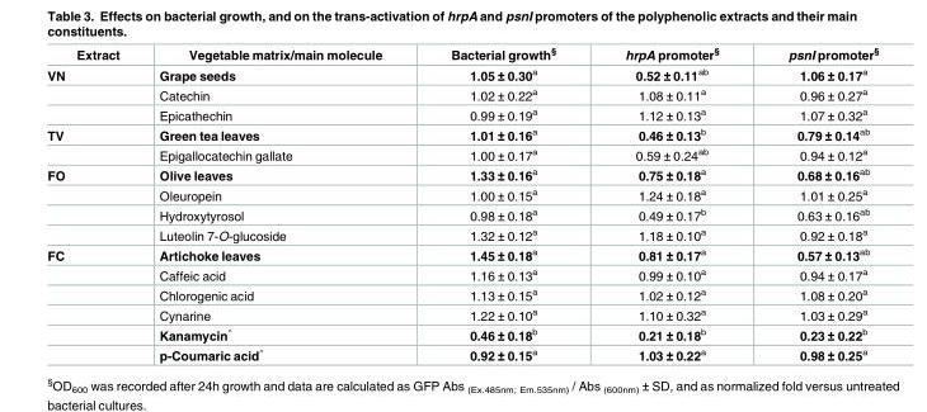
<table><thead><tr><td>Extract</td><td>Vegetable matrix/main molecule</td><td>Bacterial growth<sup>§</sup></td><td>hrpA promoter<sup>§</sup></td><td>psnI promoter<sup>§</sup></td></tr></thead><tbody><tr><td rowspan="3">VN</td><td>Grape seeds</td><td>1.05 ± 0.30<sup>a</sup></td><td>0.52 ± 0.11<sup>ab</sup></td><td>1.06 ± 0.17<sup>a</sup></td></tr><tr><td>Catechin</td><td>1.02 ± 0.22<sup>a</sup></td><td>1.08 ± 0.11<sup>a</sup></td><td>0.96 ± 0.27<sup>a</sup></td></tr><tr><td>Epicathechin</td><td>0.99 ± 0.19<sup>a</sup></td><td>1.12 ± 0.13<sup>a</sup></td><td>1.07 ± 0.32<sup>a</sup></td></tr><tr><td rowspan="2">TV</td><td>Green tea leaves</td><td>1.01 ± 0.16<sup>a</sup></td><td>0.46 ± 0.13<sup>b</sup></td><td>0.79 ± 0.14<sup>ab</sup></td></tr><tr><td>Epigallocatechin gallate</td><td>1.00 ± 0.17<sup>a</sup></td><td>0.59 ± 0.24<sup>ab</sup></td><td>0.94 ± 0.12<sup>a</sup></td></tr><tr><td rowspan="4">FO</td><td>Olive leaves</td><td>1.33 ± 0.16<sup>a</sup></td><td>0.75 ± 0.18<sup>a</sup></td><td>0.68 ± 0.16<sup>ab</sup></td></tr><tr><td>Oleuropein</td><td>1.00 ± 0.15<sup>a</sup></td><td>1.24 ± 0.18<sup>a</sup></td><td>1.01 ± 0.25<sup>a</sup></td></tr><tr><td>Hydroxytyrosol</td><td>0.98 ± 0.18<sup>a</sup></td><td>0.49 ± 0.17<sup>b</sup></td><td>0.63 ± 0.16<sup>ab</sup></td></tr><tr><td>Luteolin 7-O-glucoside</td><td>1.32 ± 0.12<sup>a</sup></td><td>1.18 ± 0.10<sup>a</sup></td><td>0.92 ± 0.18<sup>a</sup></td></tr><tr><td rowspan="6">FC</td><td>Artichoke leaves</td><td>1.45 ± 0.18<sup>a</sup></td><td>0.81 ± 0.17<sup>a</sup></td><td>0.57 ± 0.13<sup>ab</sup></td></tr><tr><td>Caffeic acid</td><td>1.16 ± 0.13<sup>a</sup></td><td>0.99 ± 0.10<sup>a</sup></td><td>0.94 ± 0.17<sup>a</sup></td></tr><tr><td>Chlorogenic acid</td><td>1.13 ± 0.15<sup>a</sup></td><td>1.02 ± 0.12<sup>a</sup></td><td>1.08 ± 0.20<sup>a</sup></td></tr><tr><td>Cynarine</td><td>1.22 ± 0.10<sup>a</sup></td><td>1.10 ± 0.32<sup>a</sup></td><td>1.03 ± 0.29<sup>a</sup></td></tr><tr><td>Kanamycin<sup>˄</sup></td><td>0.46 ± 0.18<sup>b</sup></td><td>0.21 ± 0.18<sup>b</sup></td><td>0.23 ± 0.22<sup>b</sup></td></tr><tr><td>p-Coumaric acid<sup>˄</sup></td><td>0.92 ± 0.15<sup>a</sup></td><td>1.03 ± 0.22<sup>a</sup></td><td>0.98 ± 0.25<sup>a</sup></td></tr></tbody></table>